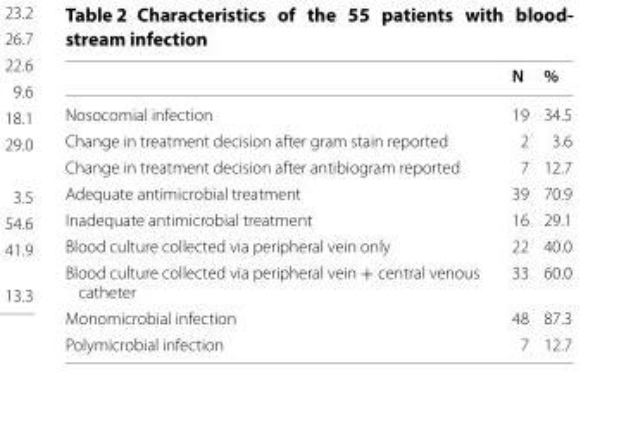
<table><thead><tr><td></td><td>N</td><td>%</td></tr></thead><tbody><tr><td>Nosocomial infection</td><td>19</td><td>34.5</td></tr><tr><td>Change in treatment decision after gram stain reported</td><td>2</td><td>3.6</td></tr><tr><td>Change in treatment decision after antibiogram reported</td><td>7</td><td>12.7</td></tr><tr><td>Adequate antimicrobial treatment</td><td>39</td><td>70.9</td></tr><tr><td>Inadequate antimicrobial treatment</td><td>16</td><td>29.1</td></tr><tr><td>Blood culture collected via peripheral vein only</td><td>22</td><td>40.0</td></tr><tr><td>Blood culture collected via peripheral vein + central venous catheter</td><td>33</td><td>60.0</td></tr><tr><td>Monomicrobial infection</td><td>48</td><td>87.3</td></tr><tr><td>Polymicrobial infection</td><td>7</td><td>12.7</td></tr></tbody></table>